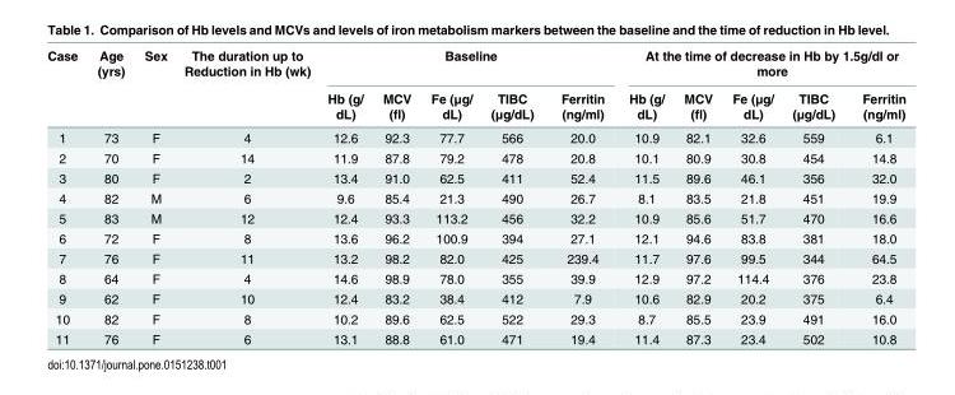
<table><thead><tr><td rowspan="2">Case</td><td rowspan="2">Age (yrs)</td><td rowspan="2">Sex</td><td rowspan="2">The duration up to Reduction in Hb (wk)</td><td colspan="5">Baseline</td><td colspan="5">At the time of decrease in Hb by 1.5g/dl or more</td></tr><tr><td>Hb (g/ dL)</td><td>MCV (fl)</td><td>Fe (μg/ dL)</td><td>TIBC (μg/dL)</td><td>Ferritin (ng/ml)</td><td>Hb (g/ dL)</td><td>MCV (fl)</td><td>Fe (μg/ dL)</td><td>TIBC (μg/dL)</td><td>Ferritin (ng/ml)</td></tr></thead><tbody><tr><td>1</td><td>73</td><td>F</td><td>4</td><td>12.6</td><td>92.3</td><td>77.7</td><td>566</td><td>20.0</td><td>10.9</td><td>82.1</td><td>32.6</td><td>559</td><td>6.1</td></tr><tr><td>2</td><td>70</td><td>F</td><td>14</td><td>11.9</td><td>87.8</td><td>79.2</td><td>478</td><td>20.8</td><td>10.1</td><td>80.9</td><td>30.8</td><td>454</td><td>14.8</td></tr><tr><td>3</td><td>80</td><td>F</td><td>2</td><td>13.4</td><td>91.0</td><td>62.5</td><td>411</td><td>52.4</td><td>11.5</td><td>89.6</td><td>46.1</td><td>356</td><td>32.0</td></tr><tr><td>4</td><td>82</td><td>M</td><td>6</td><td>9.6</td><td>85.4</td><td>21.3</td><td>490</td><td>26.7</td><td>8.1</td><td>83.5</td><td>21.8</td><td>451</td><td>19.9</td></tr><tr><td>5</td><td>83</td><td>M</td><td>12</td><td>12.4</td><td>93.3</td><td>113.2</td><td>456</td><td>32.2</td><td>10.9</td><td>85.6</td><td>51.7</td><td>470</td><td>16.6</td></tr><tr><td>6</td><td>72</td><td>F</td><td>8</td><td>13.6</td><td>96.2</td><td>100.9</td><td>394</td><td>27.1</td><td>12.1</td><td>94.6</td><td>83.8</td><td>381</td><td>18.0</td></tr><tr><td>7</td><td>76</td><td>F</td><td>11</td><td>13.2</td><td>98.2</td><td>82.0</td><td>425</td><td>239.4</td><td>11.7</td><td>97.6</td><td>99.5</td><td>344</td><td>64.5</td></tr><tr><td>8</td><td>64</td><td>F</td><td>4</td><td>14.6</td><td>98.9</td><td>78.0</td><td>355</td><td>39.9</td><td>12.9</td><td>97.2</td><td>114.4</td><td>376</td><td>23.8</td></tr><tr><td>9</td><td>62</td><td>F</td><td>10</td><td>12.4</td><td>83.2</td><td>38.4</td><td>412</td><td>7.9</td><td>10.6</td><td>82.9</td><td>20.2</td><td>375</td><td>6.4</td></tr><tr><td>10</td><td>82</td><td>F</td><td>8</td><td>10.2</td><td>89.6</td><td>62.5</td><td>522</td><td>29.3</td><td>8.7</td><td>85.5</td><td>23.9</td><td>491</td><td>16.0</td></tr><tr><td>11</td><td>76</td><td>F</td><td>6</td><td>13.1</td><td>88.8</td><td>61.0</td><td>471</td><td>19.4</td><td>11.4</td><td>87.3</td><td>23.4</td><td>502</td><td>10.8</td></tr></tbody></table>